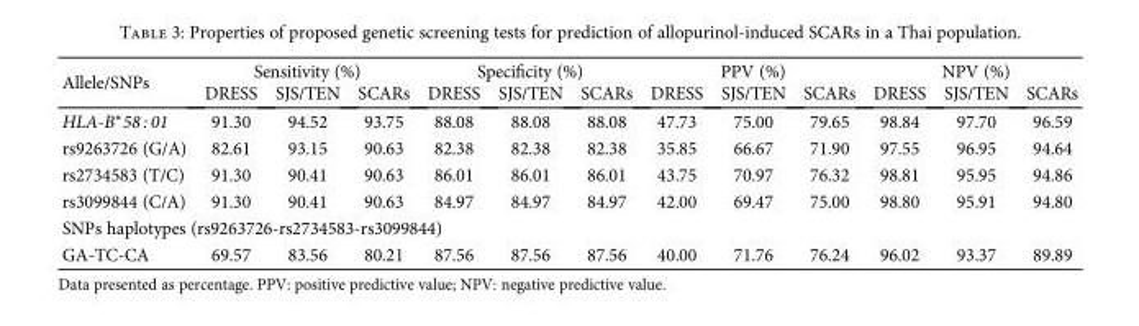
<table><thead><tr><td rowspan="2">Allele/SNPs</td><td colspan="3">Sensitivity (%)</td><td colspan="3">Specificity (%)</td><td colspan="3">PPV (%)</td><td colspan="3">NPV (%)</td></tr><tr><td>DRESS</td><td>SJS/TEN</td><td>SCARs</td><td>DRESS</td><td>SJS/TEN</td><td>SCARs</td><td>DRESS</td><td>SJS/TEN</td><td>SCARs</td><td>DRESS</td><td>SJS/TEN</td><td>SCARs</td></tr></thead><tbody><tr><td>HLA-B∗58 : 01</td><td>91.30</td><td>94.52</td><td>93.75</td><td>88.08</td><td>88.08</td><td>88.08</td><td>47.73</td><td>75.00</td><td>79.65</td><td>98.84</td><td>97.70</td><td>96.59</td></tr><tr><td>rs9263726 (G/A)</td><td>82.61</td><td>93.15</td><td>90.63</td><td>82.38</td><td>82.38</td><td>82.38</td><td>35.85</td><td>66.67</td><td>71.90</td><td>97.55</td><td>96.95</td><td>94.64</td></tr><tr><td>rs2734583 (T/C)</td><td>91.30</td><td>90.41</td><td>90.63</td><td>86.01</td><td>86.01</td><td>86.01</td><td>43.75</td><td>70.97</td><td>76.32</td><td>98.81</td><td>95.95</td><td>94.86</td></tr><tr><td>rs3099844 (C/A)</td><td>91.30</td><td>90.41</td><td>90.63</td><td>84.97</td><td>84.97</td><td>84.97</td><td>42.00</td><td>69.47</td><td>75.00</td><td>98.80</td><td>95.91</td><td>94.80</td></tr><tr><td colspan="13">SNPs haplotypes (rs9263726-rs2734583-rs3099844)</td></tr><tr><td>GA-TC-CA</td><td>69.57</td><td>83.56</td><td>80.21</td><td>87.56</td><td>87.56</td><td>87.56</td><td>40.00</td><td>71.76</td><td>76.24</td><td>96.02</td><td>93.37</td><td>89.89</td></tr></tbody></table>